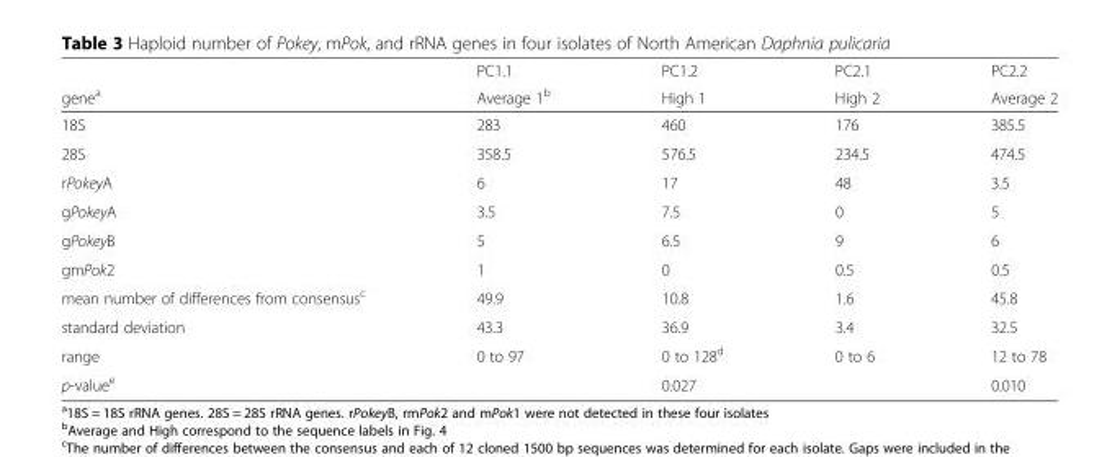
<table><thead><tr><td rowspan="2">gene<sup>a</sup></td><td rowspan="2">PC1.1 Average 1<sup>b</sup></td><td rowspan="2">PC1.2 High 1</td><td rowspan="2">PC2.1 High 2</td><td rowspan="2">PC2.2 Average 2</td></tr><tr></tr></thead><tbody><tr><td>18S</td><td>283</td><td>460</td><td>176</td><td>385.5</td></tr><tr><td>28S</td><td>358.5</td><td>576.5</td><td>234.5</td><td>474.5</td></tr><tr><td>rPokeyA</td><td>6</td><td>17</td><td>48</td><td>3.5</td></tr><tr><td>gPokeyA</td><td>3.5</td><td>7.5</td><td>0</td><td>5</td></tr><tr><td>gPokeyB</td><td>5</td><td>6.5</td><td>9</td><td>6</td></tr><tr><td>gmPok2</td><td>1</td><td>0</td><td>0.5</td><td>0.5</td></tr><tr><td>mean number of differences from consensus<sup>c</sup></td><td>49.9</td><td>10.8</td><td>1.6</td><td>45.8</td></tr><tr><td>standard deviation</td><td>43.3</td><td>36.9</td><td>3.4</td><td>32.5</td></tr><tr><td>range</td><td>0 to 97</td><td>0 to 128<sup>d</sup></td><td>0 to 6</td><td>12 to 78</td></tr><tr><td>p-value<sup>e</sup></td><td></td><td>0.027</td><td></td><td>0.010</td></tr></tbody></table>